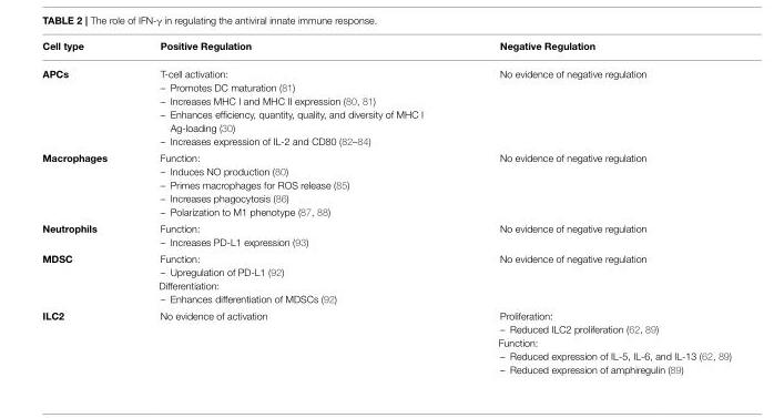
<table><thead><tr><td>Cell type</td><td>Positive Regulation</td><td>Negative Regulation</td></tr></thead><tbody><tr><td>APCs</td><td>T-cell activation: – Promotes DC maturation (81) – Increases MHC I and MHC II expression (80, 81) – Enhances efficiency, quantity, quality, and diversity of MHC I Ag-loading (30) – Increases expression of IL-2 and CD80 (82–84)</td><td>No evidence of negative regulation</td></tr><tr><td>Macrophages</td><td>Function: – Induces NO production (80) – Primes macrophages for ROS release (85) – Increases phagocytosis (86) – Polarization to M1 phenotype (87, 88)</td><td>No evidence of negative regulation</td></tr><tr><td>Neutrophils</td><td>Function: – Increases PD-L1 expression (93)</td><td>No evidence of negative regulation</td></tr><tr><td>MDSC</td><td>Function: – Upregulation of PD-L1 (92) Differentiation: – Enhances differentiation of MDSCs (92)</td><td>No evidence of negative regulation</td></tr><tr><td>ILC2</td><td>No evidence of activation</td><td>Proliferation: – Reduced ILC2 proliferation (62, 89) Function: – Reduced expression of IL-5, IL-6, and IL-13 (62, 89) – Reduced expression of amphiregulin (89)</td></tr></tbody></table>